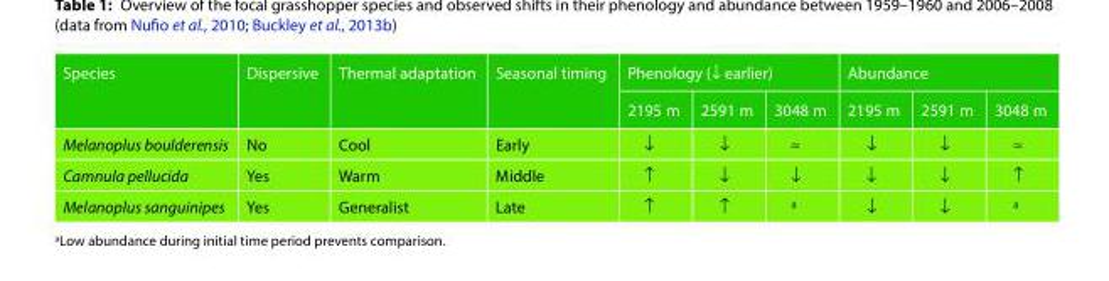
<table><thead><tr><td rowspan="2">Species</td><td rowspan="2">Dispersive</td><td rowspan="2">Thermal adaptation</td><td rowspan="2">Seasonal timing</td><td colspan="3">Phenology (↓ earlier)</td><td colspan="3">Abundance</td></tr><tr><td>2195 m</td><td>2591 m</td><td>3048 m</td><td>2195 m</td><td>2591 m</td><td>3048 m</td></tr></thead><tbody><tr><td>Melanoplus boulderensis</td><td>No</td><td>Cool</td><td>Early</td><td>↓</td><td>↓</td><td>≈</td><td>↓</td><td>↓</td><td>≈</td></tr><tr><td>Camnula pellucida</td><td>Yes</td><td>Warm</td><td>Middle</td><td>↑</td><td>↓</td><td>↓</td><td>↓</td><td>↓</td><td>↑</td></tr><tr><td>Melanoplus sanguinipes</td><td>Yes</td><td>Generalist</td><td>Late</td><td>↑</td><td>↑</td><td><sup>a</sup></td><td>↓</td><td>↓</td><td><sup>a</sup></td></tr></tbody></table>